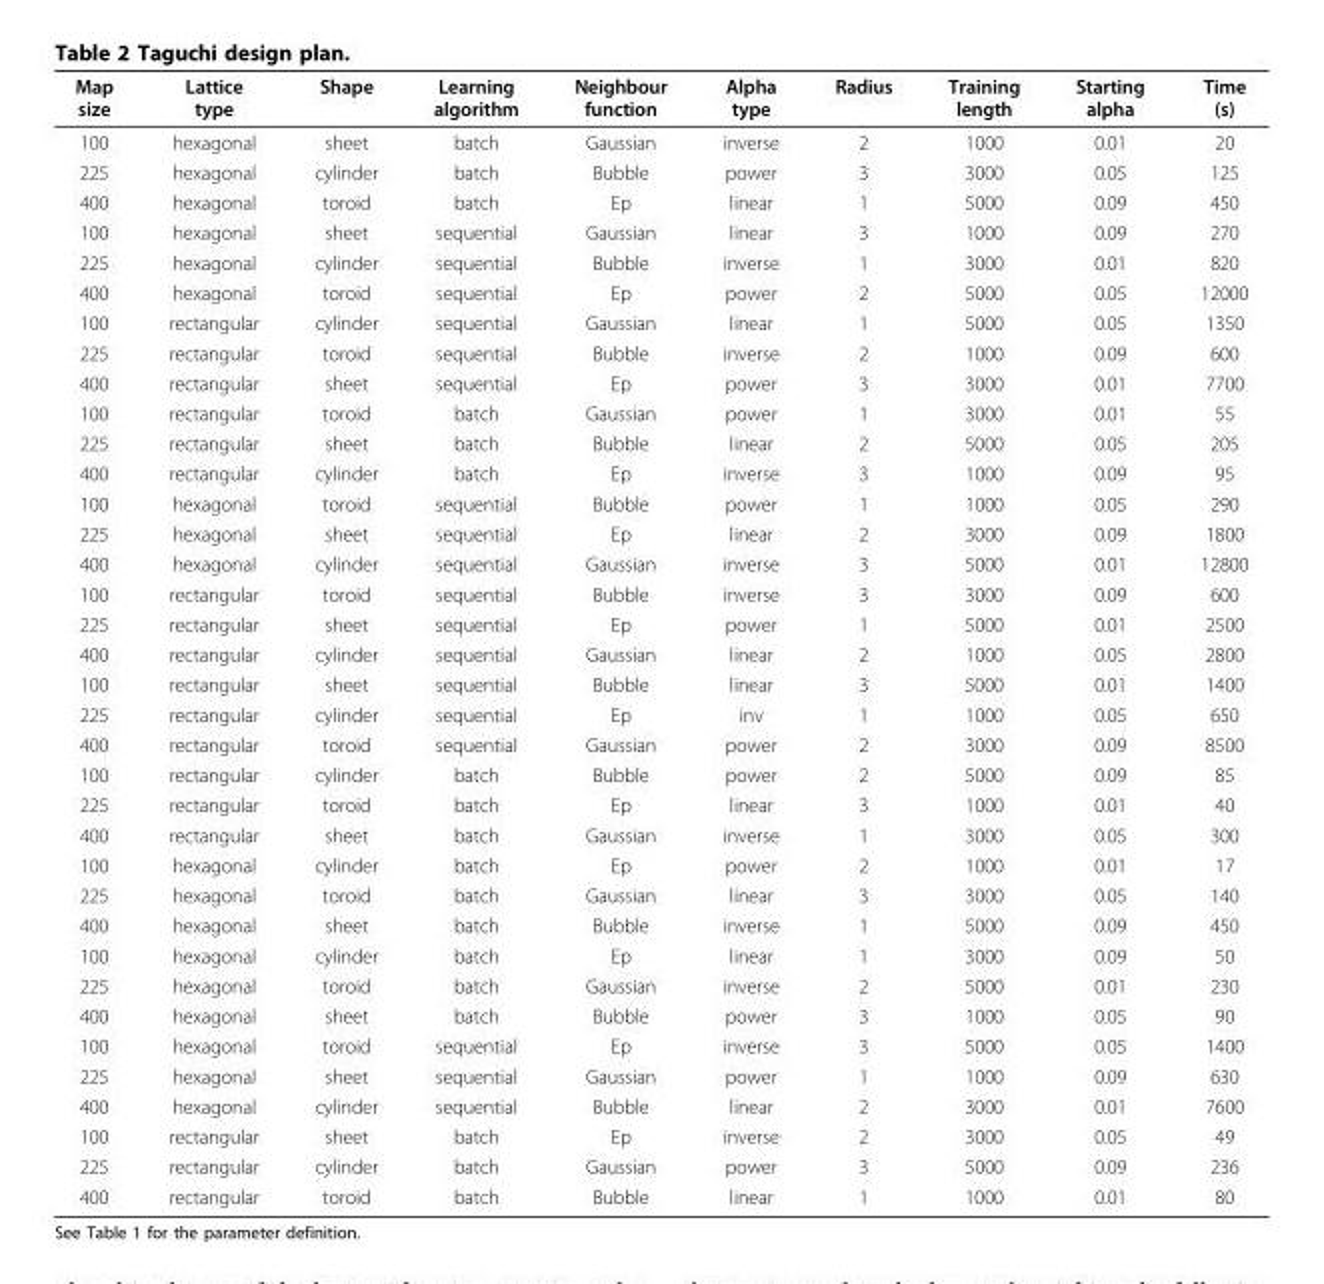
<table><thead><tr><td>Map size</td><td>Lattice type</td><td>Shape</td><td>Learning algorithm</td><td>Neighbour function</td><td>Alpha type</td><td>Radius</td><td>Training length</td><td>Starting alpha</td><td>Time (s)</td></tr></thead><tbody><tr><td>100</td><td>hexagonal</td><td>sheet</td><td>batch</td><td>Gaussian</td><td>inverse</td><td>2</td><td>1000</td><td>0.01</td><td>20</td></tr><tr><td>225</td><td>hexagonal</td><td>cylinder</td><td>batch</td><td>Bubble</td><td>power</td><td>3</td><td>3000</td><td>0.05</td><td>125</td></tr><tr><td>400</td><td>hexagonal</td><td>toroid</td><td>batch</td><td>Ep</td><td>linear</td><td>1</td><td>5000</td><td>0.09</td><td>450</td></tr><tr><td>100</td><td>hexagonal</td><td>sheet</td><td>sequential</td><td>Gaussian</td><td>linear</td><td>3</td><td>1000</td><td>0.09</td><td>270</td></tr><tr><td>225</td><td>hexagonal</td><td>cylinder</td><td>sequential</td><td>Bubble</td><td>inverse</td><td>1</td><td>3000</td><td>0.01</td><td>820</td></tr><tr><td>400</td><td>hexagonal</td><td>toroid</td><td>sequential</td><td>Ep</td><td>power</td><td>2</td><td>5000</td><td>0.05</td><td>12000</td></tr><tr><td>100</td><td>rectangular</td><td>cylinder</td><td>sequential</td><td>Gaussian</td><td>linear</td><td>1</td><td>5000</td><td>0.05</td><td>1350</td></tr><tr><td>225</td><td>rectangular</td><td>toroid</td><td>sequential</td><td>Bubble</td><td>inverse</td><td>2</td><td>1000</td><td>0.09</td><td>600</td></tr><tr><td>400</td><td>rectangular</td><td>sheet</td><td>sequential</td><td>Ep</td><td>power</td><td>3</td><td>3000</td><td>0.01</td><td>7700</td></tr><tr><td>100</td><td>rectangular</td><td>toroid</td><td>batch</td><td>Gaussian</td><td>power</td><td>1</td><td>3000</td><td>0.01</td><td>55</td></tr><tr><td>225</td><td>rectangular</td><td>sheet</td><td>batch</td><td>Bubble</td><td>linear</td><td>2</td><td>5000</td><td>0.05</td><td>205</td></tr><tr><td>400</td><td>rectangular</td><td>cylinder</td><td>batch</td><td>Ep</td><td>inverse</td><td>3</td><td>1000</td><td>0.09</td><td>95</td></tr><tr><td>100</td><td>hexagonal</td><td>toroid</td><td>sequential</td><td>Bubble</td><td>power</td><td>1</td><td>1000</td><td>0.05</td><td>290</td></tr><tr><td>225</td><td>hexagonal</td><td>sheet</td><td>sequential</td><td>Ep</td><td>linear</td><td>2</td><td>3000</td><td>0.09</td><td>1800</td></tr><tr><td>400</td><td>hexagonal</td><td>cylinder</td><td>sequential</td><td>Gaussian</td><td>inverse</td><td>3</td><td>5000</td><td>0.01</td><td>12800</td></tr><tr><td>100</td><td>rectangular</td><td>toroid</td><td>sequential</td><td>Bubble</td><td>inverse</td><td>3</td><td>3000</td><td>0.09</td><td>600</td></tr><tr><td>225</td><td>rectangular</td><td>sheet</td><td>sequential</td><td>Ep</td><td>power</td><td>1</td><td>5000</td><td>0.01</td><td>2500</td></tr><tr><td>400</td><td>rectangular</td><td>cylinder</td><td>sequential</td><td>Gaussian</td><td>linear</td><td>2</td><td>1000</td><td>0.05</td><td>2800</td></tr><tr><td>100</td><td>rectangular</td><td>sheet</td><td>sequential</td><td>Bubble</td><td>linear</td><td>3</td><td>5000</td><td>0.01</td><td>1400</td></tr><tr><td>225</td><td>rectangular</td><td>cylinder</td><td>sequential</td><td>Ep</td><td>inv</td><td>1</td><td>1000</td><td>0.05</td><td>650</td></tr><tr><td>400</td><td>rectangular</td><td>toroid</td><td>sequential</td><td>Gaussian</td><td>power</td><td>2</td><td>3000</td><td>0.09</td><td>8500</td></tr><tr><td>100</td><td>rectangular</td><td>cylinder</td><td>batch</td><td>Bubble</td><td>power</td><td>2</td><td>5000</td><td>0.09</td><td>85</td></tr><tr><td>225</td><td>rectangular</td><td>toroid</td><td>batch</td><td>Ep</td><td>linear</td><td>3</td><td>1000</td><td>0.01</td><td>40</td></tr><tr><td>400</td><td>rectangular</td><td>sheet</td><td>batch</td><td>Gaussian</td><td>inverse</td><td>1</td><td>3000</td><td>0.05</td><td>300</td></tr><tr><td>100</td><td>hexagonal</td><td>cylinder</td><td>batch</td><td>Ep</td><td>power</td><td>2</td><td>1000</td><td>0.01</td><td>17</td></tr><tr><td>225</td><td>hexagonal</td><td>toroid</td><td>batch</td><td>Gaussian</td><td>linear</td><td>3</td><td>3000</td><td>0.05</td><td>140</td></tr><tr><td>400</td><td>hexagonal</td><td>sheet</td><td>batch</td><td>Bubble</td><td>inverse</td><td>1</td><td>5000</td><td>0.09</td><td>450</td></tr><tr><td>100</td><td>hexagonal</td><td>cylinder</td><td>batch</td><td>Ep</td><td>linear</td><td>1</td><td>3000</td><td>0.09</td><td>50</td></tr><tr><td>225</td><td>hexagonal</td><td>toroid</td><td>batch</td><td>Gaussian</td><td>inverse</td><td>2</td><td>5000</td><td>0.01</td><td>230</td></tr><tr><td>400</td><td>hexagonal</td><td>sheet</td><td>batch</td><td>Bubble</td><td>power</td><td>3</td><td>1000</td><td>0.05</td><td>90</td></tr><tr><td>100</td><td>hexagonal</td><td>toroid</td><td>sequential</td><td>Ep</td><td>inverse</td><td>3</td><td>5000</td><td>0.05</td><td>1400</td></tr><tr><td>225</td><td>hexagonal</td><td>sheet</td><td>sequential</td><td>Gaussian</td><td>power</td><td>1</td><td>1000</td><td>0.09</td><td>630</td></tr><tr><td>400</td><td>hexagonal</td><td>cylinder</td><td>sequential</td><td>Bubble</td><td>linear</td><td>2</td><td>3000</td><td>0.01</td><td>7600</td></tr><tr><td>100</td><td>rectangular</td><td>sheet</td><td>batch</td><td>Ep</td><td>inverse</td><td>2</td><td>3000</td><td>0.05</td><td>49</td></tr><tr><td>225</td><td>rectangular</td><td>cylinder</td><td>batch</td><td>Gaussian</td><td>power</td><td>3</td><td>5000</td><td>0.09</td><td>236</td></tr><tr><td>400</td><td>rectangular</td><td>toroid</td><td>batch</td><td>Bubble</td><td>linear</td><td>1</td><td>1000</td><td>0.01</td><td>80</td></tr></tbody></table>